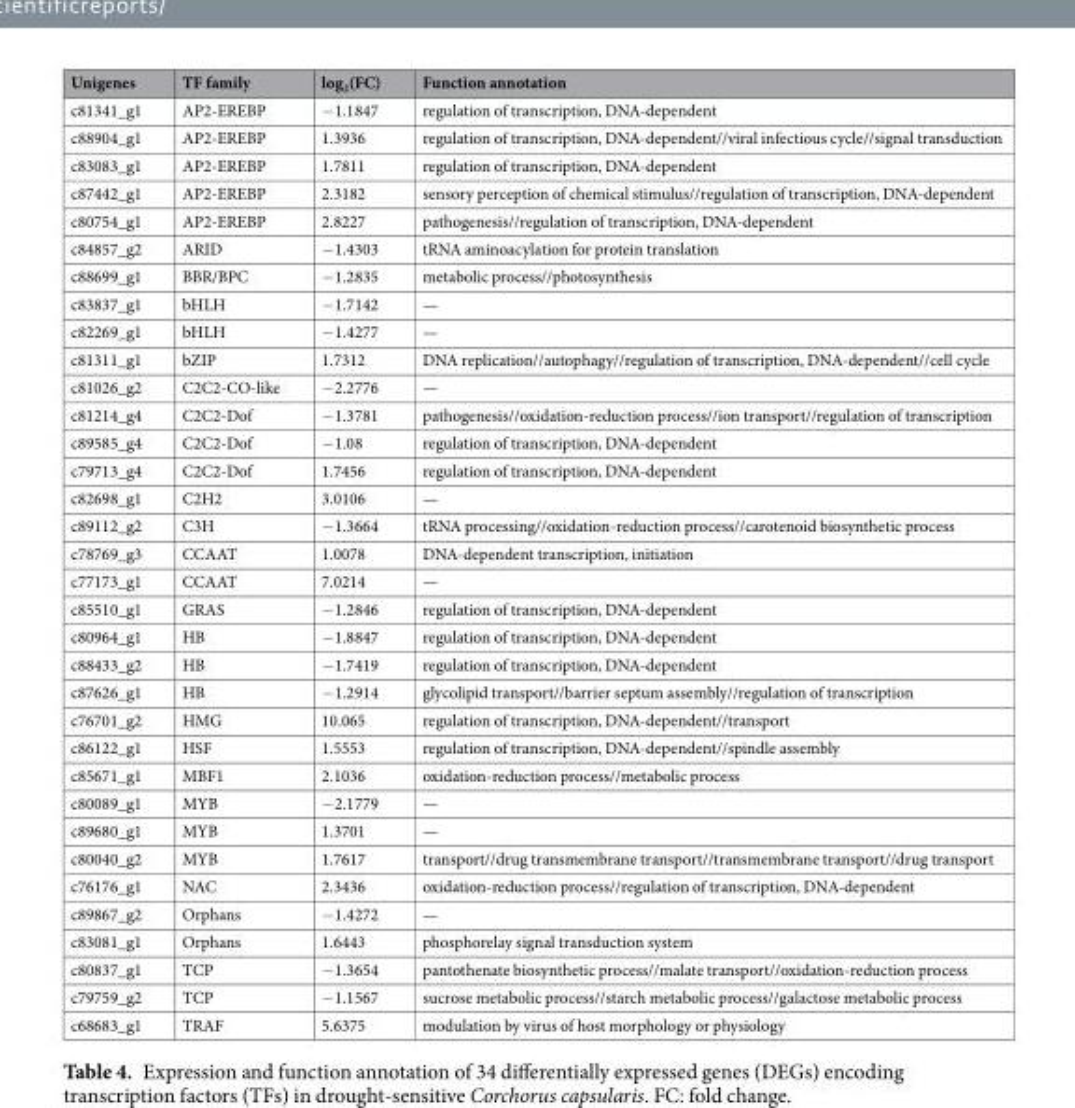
<table><thead><tr><td>Unigenes</td><td>TF family</td><td>log<sub>2</sub>(FC)</td><td>Function annotation</td></tr></thead><tbody><tr><td>c81341_g1</td><td>AP2-EREBP</td><td>−1.1847</td><td>regulation of transcription, DNA-dependent</td></tr><tr><td>c88904_g1</td><td>AP2-EREBP</td><td>1.3936</td><td>regulation of transcription, DNA-dependent//viral infectious cycle//signal transduction</td></tr><tr><td>c83083_g1</td><td>AP2-EREBP</td><td>1.7811</td><td>regulation of transcription, DNA-dependent</td></tr><tr><td>c87442_g1</td><td>AP2-EREBP</td><td>2.3182</td><td>sensory perception of chemical stimulus//regulation of transcription, DNA-dependent</td></tr><tr><td>c80754_g1</td><td>AP2-EREBP</td><td>2.8227</td><td>pathogenesis//regulation of transcription, DNA-dependent</td></tr><tr><td>c84857_g2</td><td>ARID</td><td>−1.4303</td><td>tRNA aminoacylation for protein translation</td></tr><tr><td>c88699_g1</td><td>BBR/BPC</td><td>−1.2835</td><td>metabolic process//photosynthesis</td></tr><tr><td>c83837_g1</td><td>bHLH</td><td>−1.7142</td><td>—</td></tr><tr><td>c82269_g1</td><td>bHLH</td><td>−1.4277</td><td>—</td></tr><tr><td>c81311_g1</td><td>bZIP</td><td>1.7312</td><td>DNA replication//autophagy//regulation of transcription, DNA-dependent//cell cycle</td></tr><tr><td>c81026_g2</td><td>C2C2-CO-like</td><td>−2.2776</td><td>—</td></tr><tr><td>c81214_g4</td><td>C2C2-Dof</td><td>−1.3781</td><td>pathogenesis//oxidation-reduction process//ion transport//regulation of transcription</td></tr><tr><td>c89585_g4</td><td>C2C2-Dof</td><td>−1.08</td><td>regulation of transcription, DNA-dependent</td></tr><tr><td>c79713_g4</td><td>C2C2-Dof</td><td>1.7456</td><td>regulation of transcription, DNA-dependent</td></tr><tr><td>c82698_g1</td><td>C2H2</td><td>3.0106</td><td>—</td></tr><tr><td>c89112_g2</td><td>C3H</td><td>−1.3664</td><td>tRNA processing//oxidation-reduction process//carotenoid biosynthetic process</td></tr><tr><td>c78769_g3</td><td>CCAAT</td><td>1.0078</td><td>DNA-dependent transcription, initiation</td></tr><tr><td>c77173_g1</td><td>CCAAT</td><td>7.0214</td><td>—</td></tr><tr><td>c85510_g1</td><td>GRAS</td><td>−1.2846</td><td>regulation of transcription, DNA-dependent</td></tr><tr><td>c80964_g1</td><td>HB</td><td>−1.8847</td><td>regulation of transcription, DNA-dependent</td></tr><tr><td>c88433_g2</td><td>HB</td><td>−1.7419</td><td>regulation of transcription, DNA-dependent</td></tr><tr><td>c87626_g1</td><td>HB</td><td>−1.2914</td><td>glycolipid transport//barrier septum assembly//regulation of transcription</td></tr><tr><td>c76701_g2</td><td>HMG</td><td>10.065</td><td>regulation of transcription, DNA-dependent//transport</td></tr><tr><td>c86122_g1</td><td>HSF</td><td>1.5553</td><td>regulation of transcription, DNA-dependent//spindle assembly</td></tr><tr><td>c85671_g1</td><td>MBF1</td><td>2.1036</td><td>oxidation-reduction process//metabolic process</td></tr><tr><td>c80089_g1</td><td>MYB</td><td>−2.1779</td><td>—</td></tr><tr><td>c89680_g1</td><td>MYB</td><td>1.3701</td><td>—</td></tr><tr><td>c80040_g2</td><td>MYB</td><td>1.7617</td><td>transport//drug transmembrane transport//transmembrane transport//drug transport</td></tr><tr><td>c76176_g1</td><td>NAC</td><td>2.3436</td><td>oxidation-reduction process//regulation of transcription, DNA-dependent</td></tr><tr><td>c89867_g2</td><td>Orphans</td><td>−1.4272</td><td>—</td></tr><tr><td>c83081_g1</td><td>Orphans</td><td>1.6443</td><td>phosphorelay signal transduction system</td></tr><tr><td>c80837_g1</td><td>TCP</td><td>−1.3654</td><td>pantothenate biosynthetic process//malate transport//oxidation-reduction process</td></tr><tr><td>c79759_g2</td><td>TCP</td><td>−1.1567</td><td>sucrose metabolic process//starch metabolic process//galactose metabolic process</td></tr><tr><td>c68683_g1</td><td>TRAF</td><td>5.6375</td><td>modulation by virus of host morphology or physiology</td></tr></tbody></table>